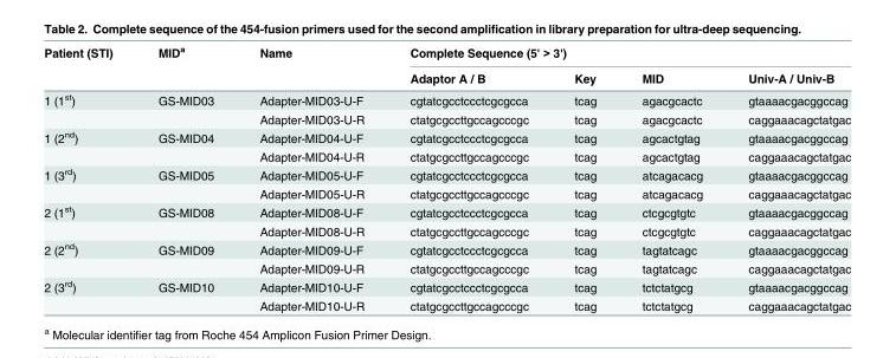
<table><thead><tr><td rowspan="2">Patient (STI)</td><td rowspan="2">MID<sup>a</sup></td><td rowspan="2">Name</td><td colspan="4">Complete Sequence (5&#x27; &gt; 3&#x27;)</td></tr><tr><td>Adaptor A / B</td><td>Key</td><td>MID</td><td>Univ-A / Univ-B</td></tr></thead><tbody><tr><td rowspan="2">1 (1<sup>st</sup>)</td><td>GS-MID03</td><td>Adapter-MID03-U-F</td><td>cgtatcgcctccctcgcgcca</td><td>tcag</td><td>agacgcactc</td><td>gtaaaacgacggccag</td></tr><tr><td></td><td>Adapter-MID03-U-R</td><td>ctatgcgccttgccagcccgc</td><td>tcag</td><td>agacgcactc</td><td>caggaaacagctatgac</td></tr><tr><td rowspan="2">1 (2<sup>nd</sup>)</td><td>GS-MID04</td><td>Adapter-MID04-U-F</td><td>cgtatcgcctccctcgcgcca</td><td>tcag</td><td>agcactgtag</td><td>gtaaaacgacggccag</td></tr><tr><td></td><td>Adapter-MID04-U-R</td><td>ctatgcgccttgccagcccgc</td><td>tcag</td><td>agcactgtag</td><td>caggaaacagctatgac</td></tr><tr><td rowspan="2">1 (3<sup>rd</sup>)</td><td>GS-MID05</td><td>Adapter-MID05-U-F</td><td>cgtatcgcctccctcgcgcca</td><td>tcag</td><td>atcagacacg</td><td>gtaaaacgacggccag</td></tr><tr><td></td><td>Adapter-MID05-U-R</td><td>ctatgcgccttgccagcccgc</td><td>tcag</td><td>atcagacacg</td><td>caggaaacagctatgac</td></tr><tr><td rowspan="2">2 (1<sup>st</sup>)</td><td>GS-MID08</td><td>Adapter-MID08-U-F</td><td>cgtatcgcctccctcgcgcca</td><td>tcag</td><td>ctcgcgtgtc</td><td>gtaaaacgacggccag</td></tr><tr><td></td><td>Adapter-MID08-U-R</td><td>ctatgcgccttgccagcccgc</td><td>tcag</td><td>ctcgcgtgtc</td><td>caggaaacagctatgac</td></tr><tr><td rowspan="2">2 (2<sup>nd</sup>)</td><td>GS-MID09</td><td>Adapter-MID09-U-F</td><td>cgtatcgcctccctcgcgcca</td><td>tcag</td><td>tagtatcagc</td><td>gtaaaacgacggccag</td></tr><tr><td></td><td>Adapter-MID09-U-R</td><td>ctatgcgccttgccagcccgc</td><td>tcag</td><td>tagtatcagc</td><td>caggaaacagctatgac</td></tr><tr><td rowspan="2">2 (3<sup>rd</sup>)</td><td>GS-MID10</td><td>Adapter-MID10-U-F</td><td>cgtatcgcctccctcgcgcca</td><td>tcag</td><td>tctctatgcg</td><td>gtaaaacgacggccag</td></tr><tr><td></td><td>Adapter-MID10-U-R</td><td>ctatgcgccttgccagcccgc</td><td>tcag</td><td>tctctatgcg</td><td>caggaaacagctatgac</td></tr></tbody></table>